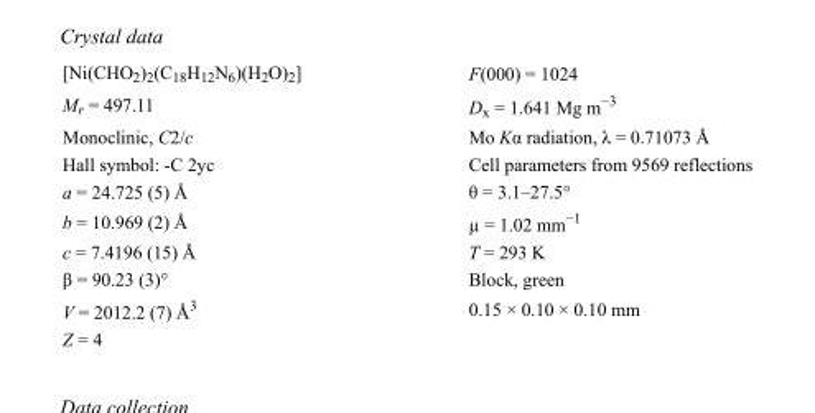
<table><tbody><tr><td>[Ni(CHO<sub>2</sub>)<sub>2</sub>(C<sub>18</sub>H<sub>12</sub>N<sub>6</sub>)(H<sub>2</sub>O)<sub>2</sub>]</td><td>F(000) = 1024</td></tr><tr><td>M<sub>r</sub> = 497.11</td><td>D<sub>x</sub> = 1.641 Mg m<sup>−3</sup></td></tr><tr><td>Monoclinic, C2/c</td><td>Mo Kα radiation, λ = 0.71073 Å</td></tr><tr><td>Hall symbol: -C 2yc</td><td>Cell parameters from 9569 reflections</td></tr><tr><td>a = 24.725 (5) Å</td><td>θ = 3.1–27.5°</td></tr><tr><td>b = 10.969 (2) Å</td><td>µ = 1.02 mm<sup>−1</sup></td></tr><tr><td>c = 7.4196 (15) Å</td><td>T = 293 K</td></tr><tr><td>β = 90.23 (3)°</td><td>Block, green</td></tr><tr><td>V = 2012.2 (7) Å<sup>3</sup></td><td>0.15 × 0.10 × 0.10 mm</td></tr><tr><td>Z = 4</td><td></td></tr></tbody></table>